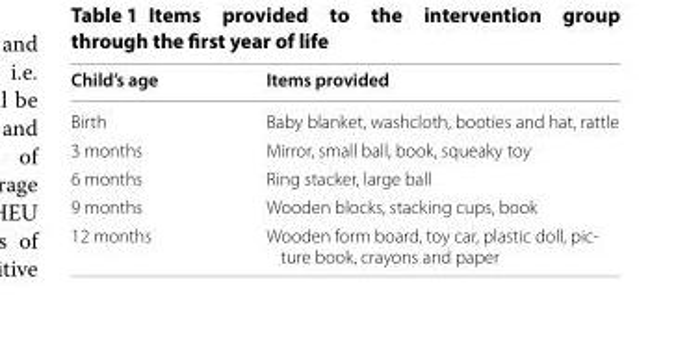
<table><thead><tr><td>Child’s age</td><td>Items provided</td></tr></thead><tbody><tr><td>Birth</td><td>Baby blanket, washcloth, booties and hat, rattle</td></tr><tr><td>3 months</td><td>Mirror, small ball, book, squeaky toy</td></tr><tr><td>6 months</td><td>Ring stacker, large ball</td></tr><tr><td>9 months</td><td>Wooden blocks, stacking cups, book</td></tr><tr><td>12 months</td><td>Wooden form board, toy car, plastic doll, pic- ture book, crayons and paper</td></tr></tbody></table>